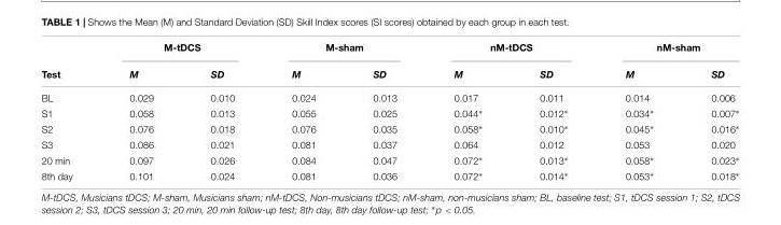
<table><thead><tr><td rowspan="2">Test</td><td colspan="2">M-tDCS</td><td colspan="2">M-sham</td><td colspan="2">nM-tDCS</td><td colspan="2">nM-sham</td></tr><tr><td>M</td><td>SD</td><td>M</td><td>SD</td><td>M</td><td>SD</td><td>M</td><td>SD</td></tr></thead><tbody><tr><td>BL</td><td>0.029</td><td>0.010</td><td>0.024</td><td>0.013</td><td>0.017</td><td>0.011</td><td>0.014</td><td>0.006</td></tr><tr><td>S1</td><td>0.058</td><td>0.013</td><td>0.055</td><td>0.025</td><td>0.044∗</td><td>0.012∗</td><td>0.034∗</td><td>0.007∗</td></tr><tr><td>S2</td><td>0.076</td><td>0.018</td><td>0.076</td><td>0.035</td><td>0.058∗</td><td>0.010∗</td><td>0.045∗</td><td>0.016∗</td></tr><tr><td>S3</td><td>0.086</td><td>0.021</td><td>0.081</td><td>0.037</td><td>0.064</td><td>0.012</td><td>0.053</td><td>0.020</td></tr><tr><td>20 min</td><td>0.097</td><td>0.026</td><td>0.084</td><td>0.047</td><td>0.072∗</td><td>0.013∗</td><td>0.058∗</td><td>0.023∗</td></tr><tr><td>8th day</td><td>0.101</td><td>0.024</td><td>0.081</td><td>0.036</td><td>0.072∗</td><td>0.014∗</td><td>0.053∗</td><td>0.018∗</td></tr></tbody></table>